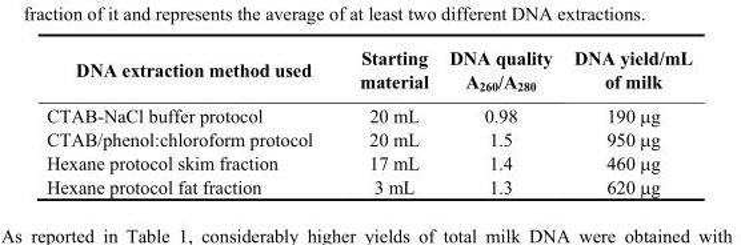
<table><thead><tr><td>DNA extraction method used</td><td>Starting material</td><td>DNA quality A<sub>260</sub>/A<sub>280</sub></td><td>DNA yield/mL of milk</td></tr></thead><tbody><tr><td>CTAB-NaCl buffer protocol</td><td>20 mL</td><td>0.98</td><td>190 μg</td></tr><tr><td>CTAB/phenol:chloroform protocol</td><td>20 mL</td><td>1.5</td><td>950 μg</td></tr><tr><td>Hexane protocol skim fraction</td><td>17 mL</td><td>1.4</td><td>460 μg</td></tr><tr><td>Hexane protocol fat fraction</td><td>3 mL</td><td>1.3</td><td>620 μg</td></tr></tbody></table>